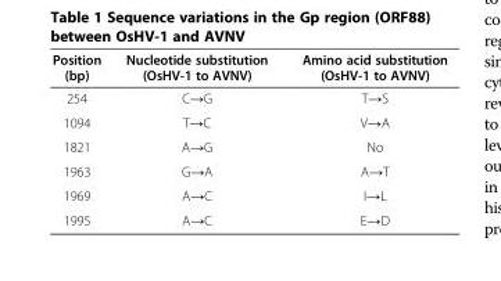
<table><thead><tr><td>Position (bp)</td><td>Nucleotide substitution (OsHV-1 to AVNV)</td><td>Amino acid substitution (OsHV-1 to AVNV)</td></tr></thead><tbody><tr><td>254</td><td>C→G</td><td>T→S</td></tr><tr><td>1094</td><td>T→C</td><td>V→A</td></tr><tr><td>1821</td><td>A→G</td><td>No</td></tr><tr><td>1963</td><td>G→A</td><td>A→T</td></tr><tr><td>1969</td><td>A→C</td><td>I→L</td></tr><tr><td>1995</td><td>A→C</td><td>E→D</td></tr></tbody></table>